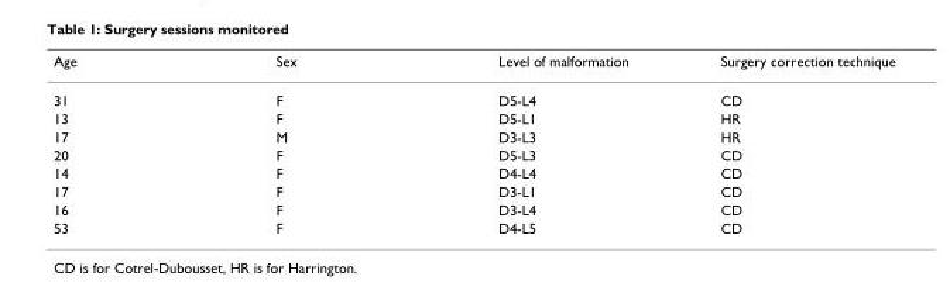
<table><thead><tr><td>Age</td><td>Sex</td><td>Level of malformation</td><td>Surgery correction technique</td></tr></thead><tbody><tr><td>31</td><td>F</td><td>D5-L4</td><td>CD</td></tr><tr><td>13</td><td>F</td><td>D5-L1</td><td>HR</td></tr><tr><td>17</td><td>M</td><td>D3-L3</td><td>HR</td></tr><tr><td>20</td><td>F</td><td>D5-L3</td><td>CD</td></tr><tr><td>14</td><td>F</td><td>D4-L4</td><td>CD</td></tr><tr><td>17</td><td>F</td><td>D3-L1</td><td>CD</td></tr><tr><td>16</td><td>F</td><td>D3-L4</td><td>CD</td></tr><tr><td>53</td><td>F</td><td>D4-L5</td><td>CD</td></tr></tbody></table>